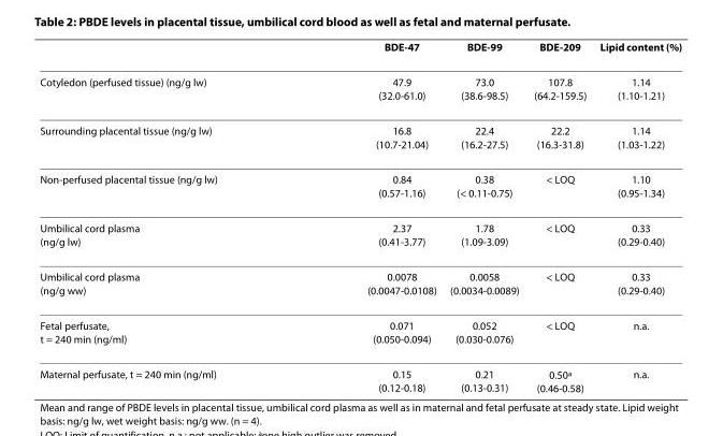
<table><thead><tr><td></td><td>BDE-47</td><td>BDE-99</td><td>BDE-209</td><td>Lipid content (%)</td></tr></thead><tbody><tr><td>Cotyledon (perfused tissue) (ng/g lw)</td><td>47.9 (32.0-61.0)</td><td>73.0 (38.6-98.5)</td><td>107.8 (64.2-159.5)</td><td>1.14 (1.10-1.21)</td></tr><tr><td>Surrounding placental tissue (ng/g lw)</td><td>16.8 (10.7-21.04)</td><td>22.4 (16.2-27.5)</td><td>22.2 (16.3-31.8)</td><td>1.14 (1.03-1.22)</td></tr><tr><td>Non-perfused placental tissue (ng/g lw)</td><td>0.84 (0.57-1.16)</td><td>0.38 (&lt; 0.11-0.75)</td><td>&lt; LOQ</td><td>1.10 (0.95-1.34)</td></tr><tr><td>Umbilical cord plasma (ng/g lw)</td><td>2.37 (0.41-3.77)</td><td>1.78 (1.09-3.09)</td><td>&lt; LOQ</td><td>0.33 (0.29-0.40)</td></tr><tr><td>Umbilical cord plasma (ng/g ww)</td><td>0.0078 (0.0047-0.0108)</td><td>0.0058 (0.0034-0.0089)</td><td>&lt; LOQ</td><td>0.33 (0.29-0.40)</td></tr><tr><td>Fetal perfusate, t = 240 min (ng/ml)</td><td>0.071 (0.050-0.094)</td><td>0.052 (0.030-0.076)</td><td>&lt; LOQ</td><td>n.a.</td></tr><tr><td>Maternal perfusate, t = 240 min (ng/ml)</td><td>0.15 (0.12-0.18)</td><td>0.21 (0.13-0.31)</td><td>0.50<sup>a</sup> (0.46-0.58)</td><td>n.a.</td></tr></tbody></table>